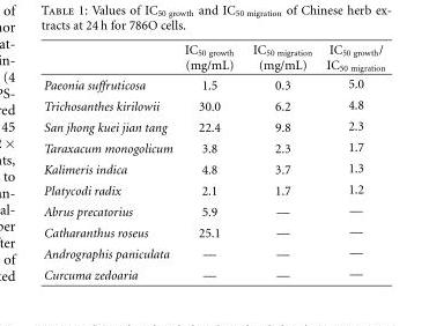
<table><thead><tr><td></td><td>IC<sub>50 growth</sub> (mg/mL)</td><td>IC<sub>50 migration</sub> (mg/mL)</td><td>IC<sub>50 growth</sub>/ IC<sub>50 migration</sub></td></tr></thead><tbody><tr><td>Paeonia suffruticosa</td><td>1.5</td><td>0.3</td><td>5.0</td></tr><tr><td>Trichosanthes kirilowii</td><td>30.0</td><td>6.2</td><td>4.8</td></tr><tr><td>San jhong kuei jian tang</td><td>22.4</td><td>9.8</td><td>2.3</td></tr><tr><td>Taraxacum monogolicum</td><td>3.8</td><td>2.3</td><td>1.7</td></tr><tr><td>Kalimeris indica</td><td>4.8</td><td>3.7</td><td>1.3</td></tr><tr><td>Platycodi radix</td><td>2.1</td><td>1.7</td><td>1.2</td></tr><tr><td>Abrus precatorius</td><td>5.9</td><td>—</td><td>—</td></tr><tr><td>Catharanthus roseus</td><td>25.1</td><td>—</td><td>—</td></tr><tr><td>Andrographis paniculata</td><td>—</td><td>—</td><td>—</td></tr><tr><td>Curcuma zedoaria</td><td>—</td><td>—</td><td>—</td></tr></tbody></table>